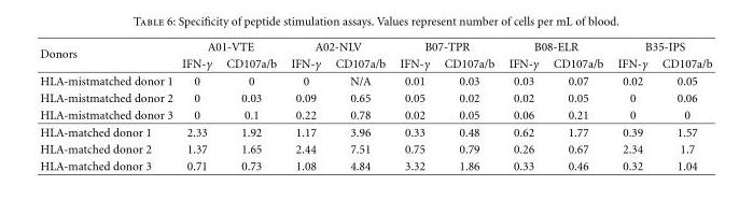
<table><thead><tr><td rowspan="2">Donors</td><td colspan="2">A01-VTE</td><td colspan="2">A02-NLV</td><td colspan="2">B07-TPR</td><td colspan="2">B08-ELR</td><td colspan="2">B35-IPS</td></tr><tr><td>IFN-γ</td><td>CD107a/b</td><td>IFN-γ</td><td>CD107a/b</td><td>IFN-γ</td><td>CD107a/b</td><td>IFN-γ</td><td>CD107a/b</td><td>IFN-γ</td><td>CD107a/b</td></tr></thead><tbody><tr><td>HLA-mistmatched donor 1</td><td>0</td><td>0</td><td>0</td><td>N/A</td><td>0.01</td><td>0.03</td><td>0.03</td><td>0.07</td><td>0.02</td><td>0.05</td></tr><tr><td>HLA-mistmatched donor 2</td><td>0</td><td>0.03</td><td>0.09</td><td>0.65</td><td>0.05</td><td>0.02</td><td>0.02</td><td>0.05</td><td>0</td><td>0.06</td></tr><tr><td>HLA-mistmatched donor 3</td><td>0</td><td>0.1</td><td>0.22</td><td>0.78</td><td>0.02</td><td>0.05</td><td>0.06</td><td>0.21</td><td>0</td><td>0</td></tr><tr><td>HLA-matched donor 1</td><td>2.33</td><td>1.92</td><td>1.17</td><td>3.96</td><td>0.33</td><td>0.48</td><td>0.62</td><td>1.77</td><td>0.39</td><td>1.57</td></tr><tr><td>HLA-matched donor 2</td><td>1.37</td><td>1.65</td><td>2.44</td><td>7.51</td><td>0.75</td><td>0.79</td><td>0.26</td><td>0.67</td><td>2.34</td><td>1.7</td></tr><tr><td>HLA-matched donor 3</td><td>0.71</td><td>0.73</td><td>1.08</td><td>4.84</td><td>3.32</td><td>1.86</td><td>0.33</td><td>0.46</td><td>0.32</td><td>1.04</td></tr></tbody></table>